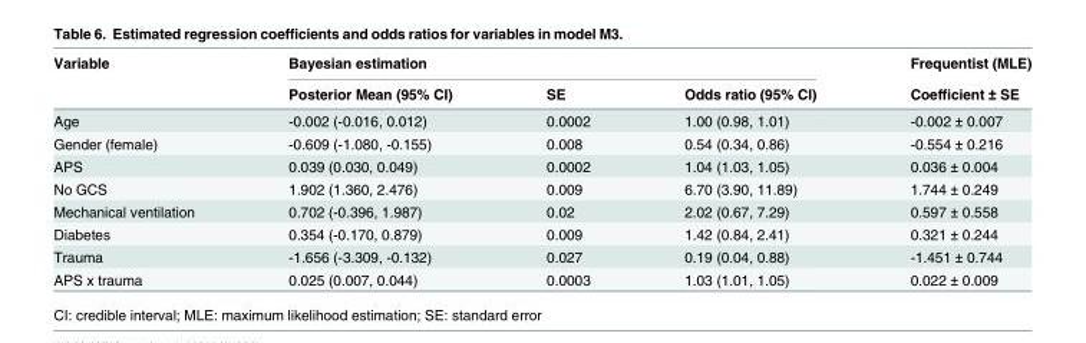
<table><thead><tr><td rowspan="2">Variable</td><td colspan="3">Bayesian estimation</td><td rowspan="2">Frequentist (MLE) Coefficient ± SE</td></tr><tr><td>Posterior Mean (95% CI)</td><td>SE</td><td>Odds ratio (95% CI)</td></tr></thead><tbody><tr><td>Age</td><td>-0.002 (-0.016, 0.012)</td><td>0.0002</td><td>1.00 (0.98, 1.01)</td><td>-0.002 ± 0.007</td></tr><tr><td>Gender (female)</td><td>-0.609 (-1.080, -0.155)</td><td>0.008</td><td>0.54 (0.34, 0.86)</td><td>-0.554 ± 0.216</td></tr><tr><td>APS</td><td>0.039 (0.030, 0.049)</td><td>0.0002</td><td>1.04 (1.03, 1.05)</td><td>0.036 ± 0.004</td></tr><tr><td>No GCS</td><td>1.902 (1.360, 2.476)</td><td>0.009</td><td>6.70 (3.90, 11.89)</td><td>1.744 ± 0.249</td></tr><tr><td>Mechanical ventilation</td><td>0.702 (-0.396, 1.987)</td><td>0.02</td><td>2.02 (0.67, 7.29)</td><td>0.597 ± 0.558</td></tr><tr><td>Diabetes</td><td>0.354 (-0.170, 0.879)</td><td>0.009</td><td>1.42 (0.84, 2.41)</td><td>0.321 ± 0.244</td></tr><tr><td>Trauma</td><td>-1.656 (-3.309, -0.132)</td><td>0.027</td><td>0.19 (0.04, 0.88)</td><td>-1.451 ± 0.744</td></tr><tr><td>APS x trauma</td><td>0.025 (0.007, 0.044)</td><td>0.0003</td><td>1.03 (1.01, 1.05)</td><td>0.022 ± 0.009</td></tr></tbody></table>